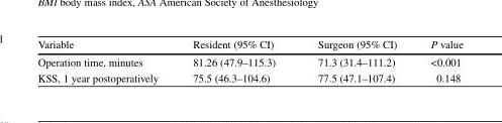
<table><thead><tr><td>Variable</td><td>Resident (95% CI)</td><td>Surgeon (95% CI)</td><td>P value</td></tr></thead><tbody><tr><td>Operation time, minutes</td><td>81.26 (47.9–115.3)</td><td>71.3 (31.4–111.2)</td><td>&lt;0.001</td></tr><tr><td>KSS, 1 year postoperatively</td><td>75.5 (46.3–104.6)</td><td>77.5 (47.1–107.4)</td><td>0.148</td></tr></tbody></table>